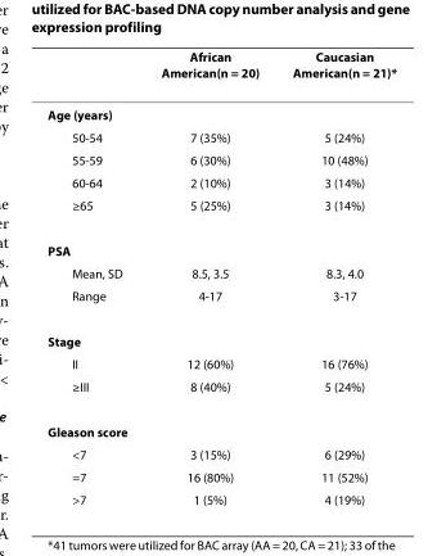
<table><thead><tr><td></td><td>African American(n = 20)</td><td>Caucasian American(n = 21)*</td></tr></thead><tbody><tr><td colspan="3">Age (years)</td></tr><tr><td>50-54</td><td>7 (35%)</td><td>5 (24%)</td></tr><tr><td>55-59</td><td>6 (30%)</td><td>10 (48%)</td></tr><tr><td>60-64</td><td>2 (10%)</td><td>3 (14%)</td></tr><tr><td>≥65</td><td>5 (25%)</td><td>3 (14%)</td></tr><tr><td colspan="3">PSA</td></tr><tr><td>Mean, SD</td><td>8.5, 3.5</td><td>8.3, 4.0</td></tr><tr><td>Range</td><td>4-17</td><td>3-17</td></tr><tr><td colspan="3">Stage</td></tr><tr><td>II</td><td>12 (60%)</td><td>16 (76%)</td></tr><tr><td>≥III</td><td>8 (40%)</td><td>5 (24%)</td></tr><tr><td colspan="3">Gleason score</td></tr><tr><td>&lt;7</td><td>3 (15%)</td><td>6 (29%)</td></tr><tr><td>=7</td><td>16 (80%)</td><td>11 (52%)</td></tr><tr><td>&gt;7</td><td>1 (5%)</td><td>4 (19%)</td></tr></tbody></table>